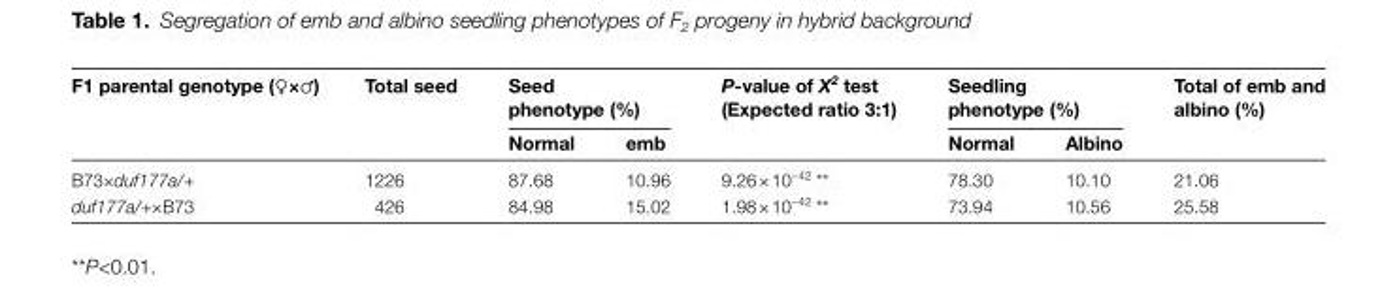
<table><thead><tr><td rowspan="2">F1 parental genotype (♀×♂)</td><td rowspan="2">Total seed</td><td colspan="2">Seed phenotype (%)</td><td rowspan="2">P-value of X<sup>2</sup> test (Expected ratio 3:1)</td><td colspan="2">Seedling phenotype (%)</td><td rowspan="2">Total of emb and albino (%)</td></tr><tr><td>Normal</td><td>emb</td><td>Normal</td><td>Albino</td></tr></thead><tbody><tr><td>B73×duf177a/+</td><td>1226</td><td>87.68</td><td>10.96</td><td>9.26 × 10<sup>−42</sup> **</td><td>78.30</td><td>10.10</td><td>21.06</td></tr><tr><td>duf177a/+×B73</td><td>426</td><td>84.98</td><td>15.02</td><td>1.98 × 10<sup>−42</sup> **</td><td>73.94</td><td>10.56</td><td>25.58</td></tr></tbody></table>